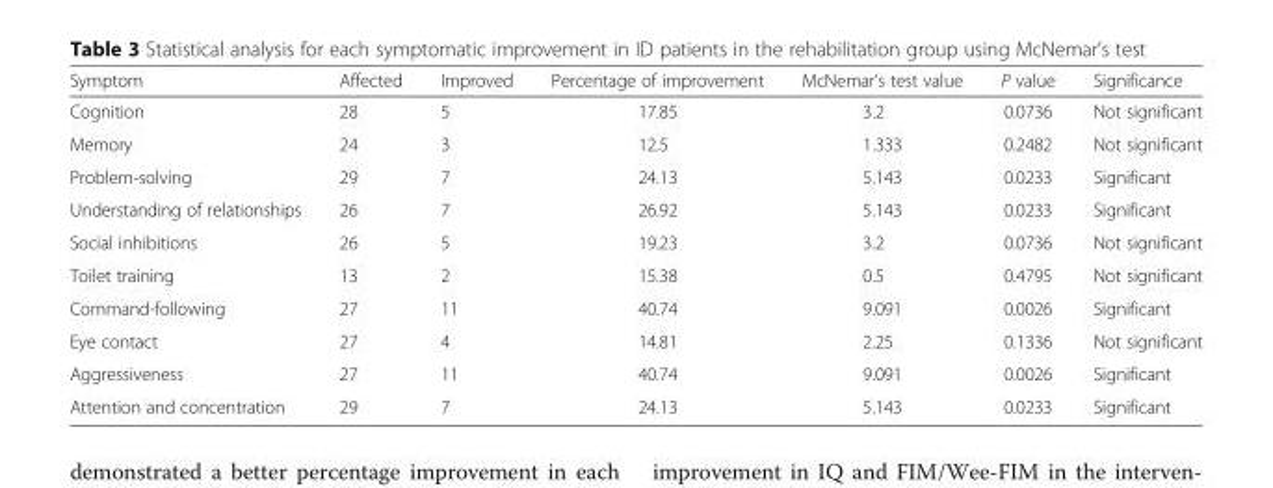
<table><thead><tr><td>Symptom</td><td>Affected</td><td>Improved</td><td>Percentage of improvement</td><td>McNemar’s test value</td><td>P value</td><td>Significance</td></tr></thead><tbody><tr><td>Cognition</td><td>28</td><td>5</td><td>17.85</td><td>3.2</td><td>0.0736</td><td>Not significant</td></tr><tr><td>Memory</td><td>24</td><td>3</td><td>12.5</td><td>1.333</td><td>0.2482</td><td>Not significant</td></tr><tr><td>Problem-solving</td><td>29</td><td>7</td><td>24.13</td><td>5.143</td><td>0.0233</td><td>Significant</td></tr><tr><td>Understanding of relationships</td><td>26</td><td>7</td><td>26.92</td><td>5.143</td><td>0.0233</td><td>Significant</td></tr><tr><td>Social inhibitions</td><td>26</td><td>5</td><td>19.23</td><td>3.2</td><td>0.0736</td><td>Not significant</td></tr><tr><td>Toilet training</td><td>13</td><td>2</td><td>15.38</td><td>0.5</td><td>0.4795</td><td>Not significant</td></tr><tr><td>Command-following</td><td>27</td><td>11</td><td>40.74</td><td>9.091</td><td>0.0026</td><td>Significant</td></tr><tr><td>Eye contact</td><td>27</td><td>4</td><td>14.81</td><td>2.25</td><td>0.1336</td><td>Not significant</td></tr><tr><td>Aggressiveness</td><td>27</td><td>11</td><td>40.74</td><td>9.091</td><td>0.0026</td><td>Significant</td></tr><tr><td>Attention and concentration</td><td>29</td><td>7</td><td>24.13</td><td>5.143</td><td>0.0233</td><td>Significant</td></tr></tbody></table>